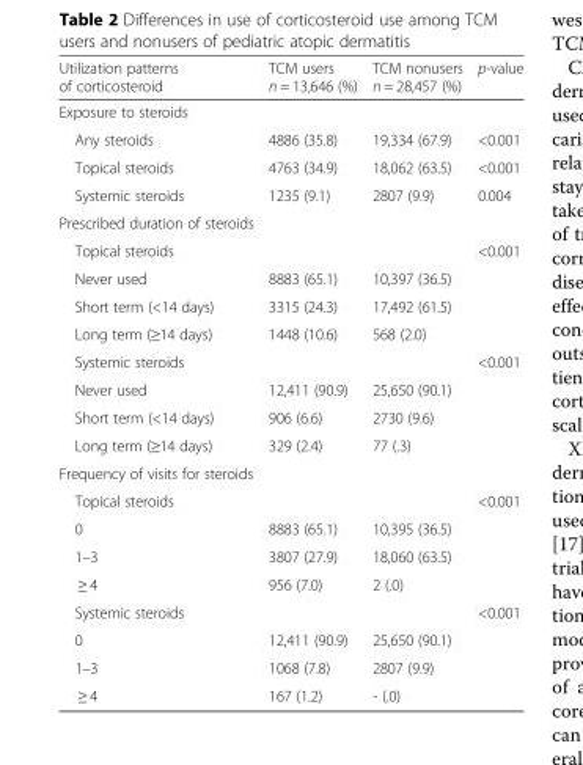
<table><thead><tr><td>Utilization patterns of corticosteroid</td><td>TCM users n = 13,646 (%)</td><td>TCM nonusers n = 28,457 (%)</td><td>p-value</td></tr></thead><tbody><tr><td colspan="4">Exposure to steroids</td></tr><tr><td>Any steroids</td><td>4886 (35.8)</td><td>19,334 (67.9)</td><td>&lt;0.001</td></tr><tr><td>Topical steroids</td><td>4763 (34.9)</td><td>18,062 (63.5)</td><td>&lt;0.001</td></tr><tr><td>Systemic steroids</td><td>1235 (9.1)</td><td>2807 (9.9)</td><td>0.004</td></tr><tr><td colspan="4">Prescribed duration of steroids</td></tr><tr><td>Topical steroids</td><td></td><td></td><td>&lt;0.001</td></tr><tr><td>Never used</td><td>8883 (65.1)</td><td>10,397 (36.5)</td><td></td></tr><tr><td>Short term (&lt;14 days)</td><td>3315 (24.3)</td><td>17,492 (61.5)</td><td></td></tr><tr><td>Long term (≥14 days)</td><td>1448 (10.6)</td><td>568 (2.0)</td><td></td></tr><tr><td>Systemic steroids</td><td></td><td></td><td>&lt;0.001</td></tr><tr><td>Never used</td><td>12,411 (90.9)</td><td>25,650 (90.1)</td><td></td></tr><tr><td>Short term (&lt;14 days)</td><td>906 (6.6)</td><td>2730 (9.6)</td><td></td></tr><tr><td>Long term (≥14 days)</td><td>329 (2.4)</td><td>77 (.3)</td><td></td></tr><tr><td colspan="4">Frequency of visits for steroids</td></tr><tr><td>Topical steroids</td><td></td><td></td><td>&lt;0.001</td></tr><tr><td>0</td><td>8883 (65.1)</td><td>10,395 (36.5)</td><td></td></tr><tr><td>1–3</td><td>3807 (27.9)</td><td>18,060 (63.5)</td><td></td></tr><tr><td>≥ 4</td><td>956 (7.0)</td><td>2 (.0)</td><td></td></tr><tr><td>Systemic steroids</td><td></td><td></td><td>&lt;0.001</td></tr><tr><td>0</td><td>12,411 (90.9)</td><td>25,650 (90.1)</td><td></td></tr><tr><td>1–3</td><td>1068 (7.8)</td><td>2807 (9.9)</td><td></td></tr><tr><td>≥ 4</td><td>167 (1.2)</td><td>- (.0)</td><td></td></tr></tbody></table>